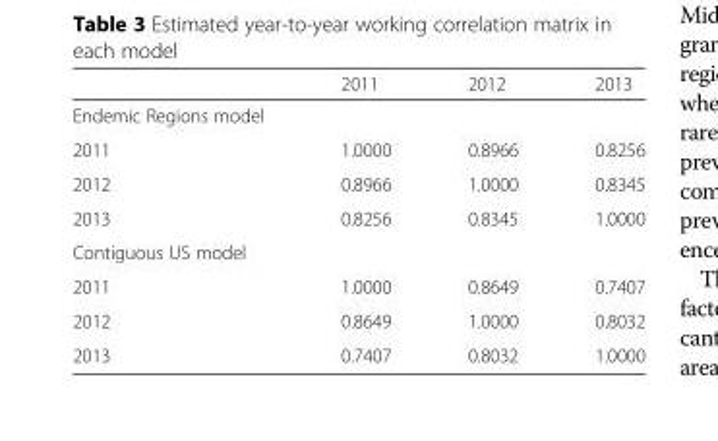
<table><thead><tr><td></td><td>2011</td><td>2012</td><td>2013</td></tr></thead><tbody><tr><td colspan="4">Endemic Regions model</td></tr><tr><td>2011</td><td>1.0000</td><td>0.8966</td><td>0.8256</td></tr><tr><td>2012</td><td>0.8966</td><td>1.0000</td><td>0.8345</td></tr><tr><td>2013</td><td>0.8256</td><td>0.8345</td><td>1.0000</td></tr><tr><td colspan="4">Contiguous US model</td></tr><tr><td>2011</td><td>1.0000</td><td>0.8649</td><td>0.7407</td></tr><tr><td>2012</td><td>0.8649</td><td>1.0000</td><td>0.8032</td></tr><tr><td>2013</td><td>0.7407</td><td>0.8032</td><td>1.0000</td></tr></tbody></table>